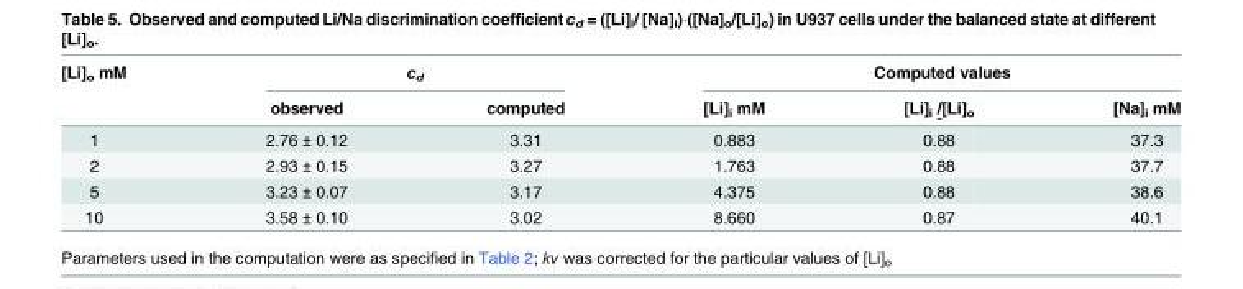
<table><thead><tr><td rowspan="2">[Li]<sub>o</sub> mM</td><td colspan="2">c<sub>d</sub></td><td colspan="3">Computed values</td></tr><tr><td>observed</td><td>computed</td><td>[Li]<sub>i</sub> mM</td><td>[Li]<sub>i</sub> /[Li]<sub>o</sub></td><td>[Na]<sub>i</sub> mM</td></tr></thead><tbody><tr><td>1</td><td>2.76 ± 0.12</td><td>3.31</td><td>0.883</td><td>0.88</td><td>37.3</td></tr><tr><td>2</td><td>2.93 ± 0.15</td><td>3.27</td><td>1.763</td><td>0.88</td><td>37.7</td></tr><tr><td>5</td><td>3.23 ± 0.07</td><td>3.17</td><td>4.375</td><td>0.88</td><td>38.6</td></tr><tr><td>10</td><td>3.58 ± 0.10</td><td>3.02</td><td>8.660</td><td>0.87</td><td>40.1</td></tr></tbody></table>